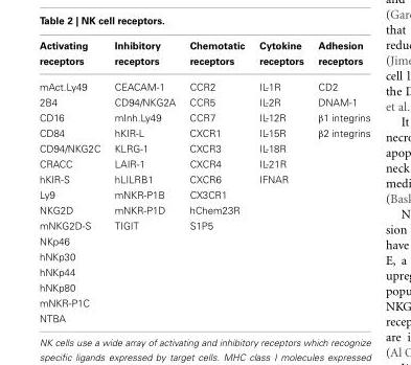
<table><thead><tr><td>Activating receptors</td><td>Inhibitory receptors</td><td>Chemotatic receptors</td><td>Cytokine receptors</td><td>Adhesion receptors</td></tr></thead><tbody><tr><td>mAct.Ly49</td><td>CEACAM-1</td><td>CCR2</td><td>IL-1R</td><td>CD2</td></tr><tr><td>2B4</td><td>CD94/NKG2A</td><td>CCR5</td><td>IL-2R</td><td>DNAM-1</td></tr><tr><td>CD16</td><td>mInh.Ly49</td><td>CCR7</td><td>IL-12R</td><td>β1 integrins</td></tr><tr><td>CD84</td><td>hKIR-L</td><td>CXCR1</td><td>IL-15R</td><td>β2 integrins</td></tr><tr><td>CD94/NKG2C</td><td>KLRG-1</td><td>CXCR3</td><td>IL-18R</td><td></td></tr><tr><td>CRACC</td><td>LAIR-1</td><td>CXCR4</td><td>IL-21R</td><td></td></tr><tr><td>hKIR-S</td><td>hLILRB1</td><td>CXCR6</td><td>IFNAR</td><td></td></tr><tr><td>Ly9</td><td>mNKR-P1B</td><td>CX3CR1</td><td></td><td></td></tr><tr><td>NKG2D</td><td>mNKR-P1D</td><td>hChem23R</td><td></td><td></td></tr><tr><td>mNKG2D-S</td><td>TIGIT</td><td>S1P5</td><td></td><td></td></tr><tr><td colspan="5">NKp46</td></tr><tr><td colspan="5">hNKp30</td></tr><tr><td colspan="5">hNKp44</td></tr><tr><td colspan="5">hNKp80</td></tr><tr><td colspan="5">mNKR-P1C</td></tr><tr><td>NTBA</td><td></td><td></td><td></td><td></td></tr></tbody></table>